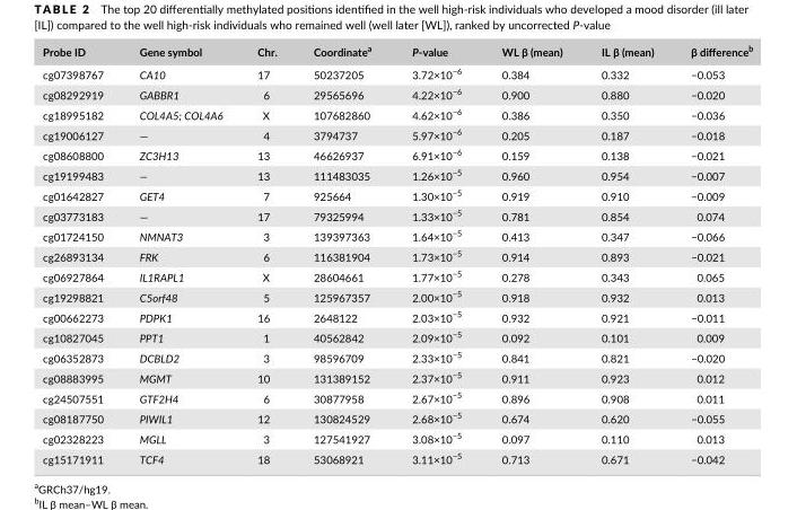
<table><thead><tr><td>Probe ID</td><td>Gene symbol</td><td>Chr.</td><td>Coordinate<sup>a</sup></td><td>P- value</td><td>WL β (mean)</td><td>IL β (mean)</td><td>β difference<sup>b</sup></td></tr></thead><tbody><tr><td>cg07398767</td><td>CA10</td><td>17</td><td>50237205</td><td>3.72×10<sup>−6</sup></td><td>0.384</td><td>0.332</td><td>−0.053</td></tr><tr><td>cg08292919</td><td>GABBR1</td><td>6</td><td>29565696</td><td>4.22×10<sup>−6</sup></td><td>0.900</td><td>0.880</td><td>−0.020</td></tr><tr><td>cg18995182</td><td>COL4A5; COL4A6</td><td>X</td><td>107682860</td><td>4.62×10<sup>−6</sup></td><td>0.386</td><td>0.350</td><td>−0.036</td></tr><tr><td>cg19006127</td><td>—</td><td>4</td><td>3794737</td><td>5.97×10<sup>−6</sup></td><td>0.205</td><td>0.187</td><td>−0.018</td></tr><tr><td>cg08608800</td><td>ZC3H13</td><td>13</td><td>46626937</td><td>6.91×10<sup>−6</sup></td><td>0.159</td><td>0.138</td><td>−0.021</td></tr><tr><td>cg19199483</td><td>—</td><td>13</td><td>111483035</td><td>1.26×10<sup>−5</sup></td><td>0.960</td><td>0.954</td><td>−0.007</td></tr><tr><td>cg01642827</td><td>GET4</td><td>7</td><td>925664</td><td>1.30×10<sup>−5</sup></td><td>0.919</td><td>0.910</td><td>−0.009</td></tr><tr><td>cg03773183</td><td>—</td><td>17</td><td>79325994</td><td>1.33×10<sup>−5</sup></td><td>0.781</td><td>0.854</td><td>0.074</td></tr><tr><td>cg01724150</td><td>NMNAT3</td><td>3</td><td>139397363</td><td>1.64×10<sup>−5</sup></td><td>0.413</td><td>0.347</td><td>−0.066</td></tr><tr><td>cg26893134</td><td>FRK</td><td>6</td><td>116381904</td><td>1.73×10<sup>−5</sup></td><td>0.914</td><td>0.893</td><td>−0.021</td></tr><tr><td>cg06927864</td><td>IL1RAPL1</td><td>X</td><td>28604661</td><td>1.77×10<sup>−5</sup></td><td>0.278</td><td>0.343</td><td>0.065</td></tr><tr><td>cg19298821</td><td>C5orf48</td><td>5</td><td>125967357</td><td>2.00×10<sup>−5</sup></td><td>0.918</td><td>0.932</td><td>0.013</td></tr><tr><td>cg00662273</td><td>PDPK1</td><td>16</td><td>2648122</td><td>2.03×10<sup>−5</sup></td><td>0.932</td><td>0.921</td><td>−0.011</td></tr><tr><td>cg10827045</td><td>PPT1</td><td>1</td><td>40562842</td><td>2.09×10<sup>−5</sup></td><td>0.092</td><td>0.101</td><td>0.009</td></tr><tr><td>cg06352873</td><td>DCBLD2</td><td>3</td><td>98596709</td><td>2.33×10<sup>−5</sup></td><td>0.841</td><td>0.821</td><td>−0.020</td></tr><tr><td>cg08883995</td><td>MGMT</td><td>10</td><td>131389152</td><td>2.37×10<sup>−5</sup></td><td>0.911</td><td>0.923</td><td>0.012</td></tr><tr><td>cg24507551</td><td>GTF2H4</td><td>6</td><td>30877958</td><td>2.67×10<sup>−5</sup></td><td>0.896</td><td>0.908</td><td>0.011</td></tr><tr><td>cg08187750</td><td>PIWIL1</td><td>12</td><td>130824529</td><td>2.68×10<sup>−5</sup></td><td>0.674</td><td>0.620</td><td>−0.055</td></tr><tr><td>cg02328223</td><td>MGLL</td><td>3</td><td>127541927</td><td>3.08×10<sup>−5</sup></td><td>0.097</td><td>0.110</td><td>0.013</td></tr><tr><td>cg15171911</td><td>TCF4</td><td>18</td><td>53068921</td><td>3.11×10<sup>−5</sup></td><td>0.713</td><td>0.671</td><td>−0.042</td></tr></tbody></table>